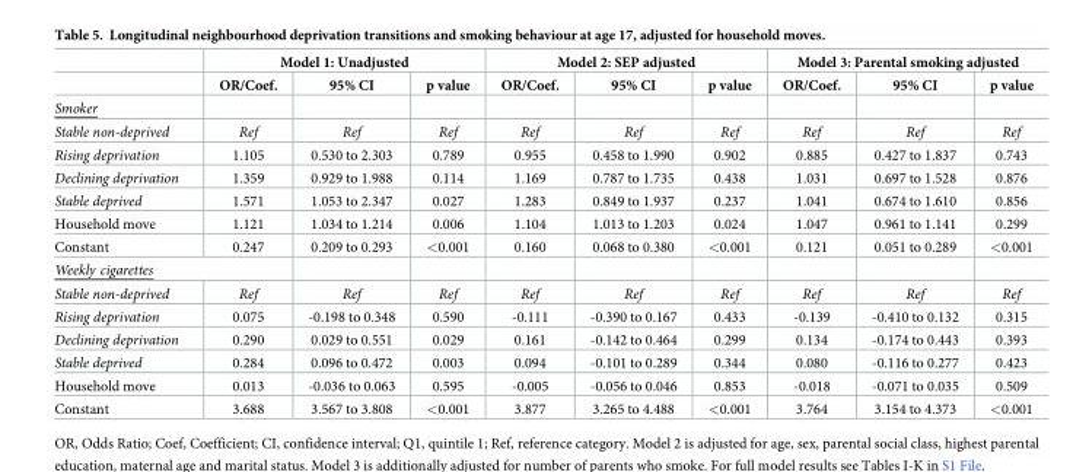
<table><thead><tr><td rowspan="2"></td><td colspan="3">Model 1: Unadjusted</td><td colspan="3">Model 2: SEP adjusted</td><td colspan="3">Model 3: Parental smoking adjusted</td></tr><tr><td>OR/Coef.</td><td>95% CI</td><td>p value</td><td>OR/Coef.</td><td>95% CI</td><td>p value</td><td>OR/Coef.</td><td>95% CI</td><td>p value</td></tr></thead><tbody><tr><td colspan="10">Smoker</td></tr><tr><td>Stable non-deprived</td><td>Ref</td><td>Ref</td><td>Ref</td><td>Ref</td><td>Ref</td><td>Ref</td><td>Ref</td><td>Ref</td><td>Ref</td></tr><tr><td>Rising deprivation</td><td>1.105</td><td>0.530 to 2.303</td><td>0.789</td><td>0.955</td><td>0.458 to 1.990</td><td>0.902</td><td>0.885</td><td>0.427 to 1.837</td><td>0.743</td></tr><tr><td>Declining deprivation</td><td>1.359</td><td>0.929 to 1.988</td><td>0.114</td><td>1.169</td><td>0.787 to 1.735</td><td>0.438</td><td>1.031</td><td>0.697 to 1.528</td><td>0.876</td></tr><tr><td>Stable deprived</td><td>1.571</td><td>1.053 to 2.347</td><td>0.027</td><td>1.283</td><td>0.849 to 1.937</td><td>0.237</td><td>1.041</td><td>0.674 to 1.610</td><td>0.856</td></tr><tr><td>Household move</td><td>1.121</td><td>1.034 to 1.214</td><td>0.006</td><td>1.104</td><td>1.013 to 1.203</td><td>0.024</td><td>1.047</td><td>0.961 to 1.141</td><td>0.299</td></tr><tr><td>Constant</td><td>0.247</td><td>0.209 to 0.293</td><td>&lt;0.001</td><td>0.160</td><td>0.068 to 0.380</td><td>&lt;0.001</td><td>0.121</td><td>0.051 to 0.289</td><td>&lt;0.001</td></tr><tr><td colspan="10">Weekly cigarettes</td></tr><tr><td>Stable non-deprived</td><td>Ref</td><td>Ref</td><td>Ref</td><td>Ref</td><td>Ref</td><td>Ref</td><td>Ref</td><td>Ref</td><td>Ref</td></tr><tr><td>Rising deprivation</td><td>0.075</td><td>-0.198 to 0.348</td><td>0.590</td><td>-0.111</td><td>-0.390 to 0.167</td><td>0.433</td><td>-0.139</td><td>-0.410 to 0.132</td><td>0.315</td></tr><tr><td>Declining deprivation</td><td>0.290</td><td>0.029 to 0.551</td><td>0.029</td><td>0.161</td><td>-0.142 to 0.464</td><td>0.299</td><td>0.134</td><td>-0.174 to 0.443</td><td>0.393</td></tr><tr><td>Stable deprived</td><td>0.284</td><td>0.096 to 0.472</td><td>0.003</td><td>0.094</td><td>-0.101 to 0.289</td><td>0.344</td><td>0.080</td><td>-0.116 to 0.277</td><td>0.423</td></tr><tr><td>Household move</td><td>0.013</td><td>-0.036 to 0.063</td><td>0.595</td><td>-0.005</td><td>-0.056 to 0.046</td><td>0.853</td><td>-0.018</td><td>-0.071 to 0.035</td><td>0.509</td></tr><tr><td>Constant</td><td>3.688</td><td>3.567 to 3.808</td><td>&lt;0.001</td><td>3.877</td><td>3.265 to 4.488</td><td>&lt;0.001</td><td>3.764</td><td>3.154 to 4.373</td><td>&lt;0.001</td></tr></tbody></table>